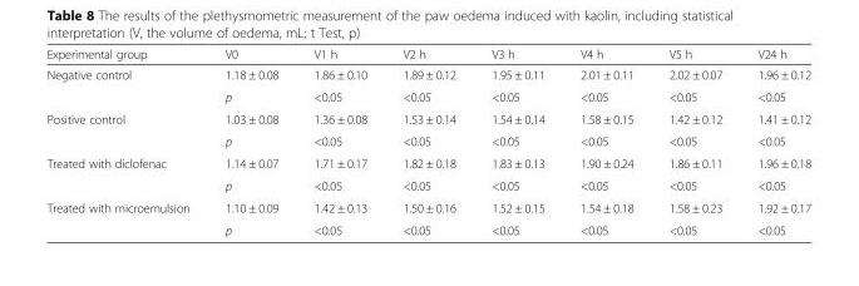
<table><thead><tr><td>Experimental group</td><td>V0</td><td>V1 h</td><td>V2 h</td><td>V3 h</td><td>V4 h</td><td>V5 h</td><td>V24 h</td></tr></thead><tbody><tr><td rowspan="2">Negative control</td><td>1.18 ± 0.08</td><td>1.86 ± 0.10</td><td>1.89 ± 0.12</td><td>1.95 ± 0.11</td><td>2.01 ± 0.11</td><td>2.02 ± 0.07</td><td>1.96 ± 0.12</td></tr><tr><td>p</td><td>&lt;0.05</td><td>&lt;0.05</td><td>&lt;0.05</td><td>&lt;0.05</td><td>&lt;0.05</td><td>&lt;0.05</td></tr><tr><td rowspan="2">Positive control</td><td>1.03 ± 0.08</td><td>1.36 ± 0.08</td><td>1.53 ± 0.14</td><td>1.54 ± 0.14</td><td>1.58 ± 0.15</td><td>1.42 ± 0.12</td><td>1.41 ± 0.12</td></tr><tr><td>p</td><td>&lt;0.05</td><td>&lt;0.05</td><td>&lt;0.05</td><td>&lt;0.05</td><td>&lt;0.05</td><td>&lt;0.05</td></tr><tr><td rowspan="2">Treated with diclofenac</td><td>1.14 ± 0.07</td><td>1.71 ± 0.17</td><td>1.82 ± 0.18</td><td>1.83 ± 0.13</td><td>1.90 ± 0.24</td><td>1.86 ± 0.11</td><td>1.96 ± 0.18</td></tr><tr><td>p</td><td>&lt;0.05</td><td>&lt;0.05</td><td>&lt;0.05</td><td>&lt;0.05</td><td>&lt;0.05</td><td>&lt;0.05</td></tr><tr><td rowspan="2">Treated with microemulsion</td><td>1.10 ± 0.09</td><td>1.42 ± 0.13</td><td>1.50 ± 0.16</td><td>1.52 ± 0.15</td><td>1.54 ± 0.18</td><td>1.58 ± 0.23</td><td>1.92 ± 0.17</td></tr><tr><td>p</td><td>&lt;0.05</td><td>&lt;0.05</td><td>&lt;0.05</td><td>&lt;0.05</td><td>&lt;0.05</td><td>&lt;0.05</td></tr></tbody></table>